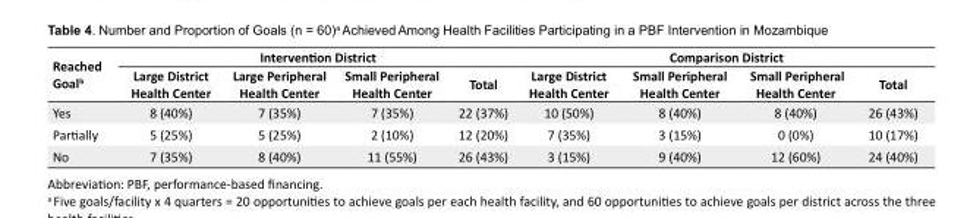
<table><tbody><tr><td rowspan="2">Reached Goalb</td><td colspan="4">Intervention District</td><td colspan="4">Comparison District</td></tr><tr><td>Large District Health Center</td><td>Large Peripheral Health Center</td><td>Small Peripheral Health Center</td><td>Total</td><td>Large District Health Center</td><td>Small Peripheral Health Center</td><td>Small Peripheral Health Center</td><td>Total</td></tr><tr><td>Yes</td><td>8 (40%)</td><td>7 (35%)</td><td>7 (35%)</td><td>22 (37%)</td><td>10 (50%)</td><td>8 (40%)</td><td>8 (40%)</td><td>26 (43%)</td></tr><tr><td>Partially</td><td>5 (25%)</td><td>5 (25%)</td><td>2 (10%)</td><td>12 (20%)</td><td>7 (35%)</td><td>3 (15%)</td><td>0 (0%)</td><td>10 (17%)</td></tr><tr><td>No</td><td>7 (35%)</td><td>8 (40%)</td><td>11 (55%)</td><td>26 (43%)</td><td>3 (15%)</td><td>9 (40%)</td><td>12 (60%)</td><td>24 (40%)</td></tr></tbody></table>